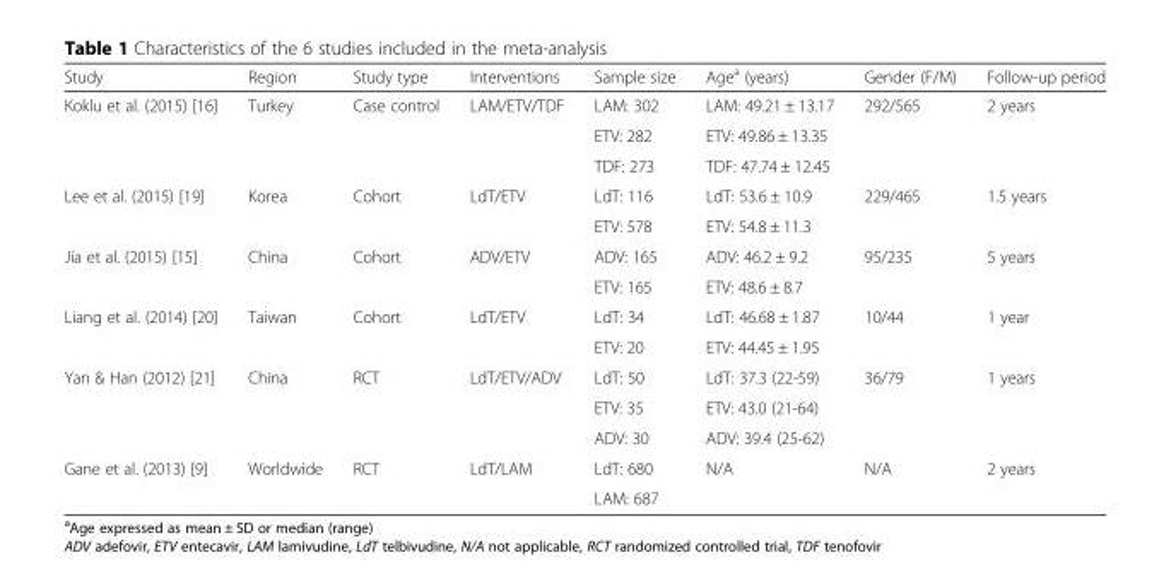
<table><thead><tr><td>Study</td><td>Region</td><td>Study type</td><td>Interventions</td><td>Sample size</td><td>Age<sup>a</sup> (years)</td><td>Gender (F/M)</td><td>Follow-up period</td></tr></thead><tbody><tr><td rowspan="3">Koklu et al. (2015) [16]</td><td rowspan="3">Turkey</td><td rowspan="3">Case control</td><td rowspan="3">LAM/ETV/TDF</td><td>LAM: 302</td><td>LAM: 49.21 ± 13.17</td><td rowspan="3">292/565</td><td rowspan="3">2 years</td></tr><tr><td>ETV: 282</td><td>ETV: 49.86 ± 13.35</td></tr><tr><td>TDF: 273</td><td>TDF: 47.74 ± 12.45</td></tr><tr><td rowspan="2">Lee et al. (2015) [19]</td><td rowspan="2">Korea</td><td rowspan="2">Cohort</td><td rowspan="2">LdT/ETV</td><td>LdT: 116</td><td>LdT: 53.6 ± 10.9</td><td rowspan="2">229/465</td><td rowspan="2">1.5 years</td></tr><tr><td>ETV: 578</td><td>ETV: 54.8 ± 11.3</td></tr><tr><td rowspan="2">Jia et al. (2015) [15]</td><td rowspan="2">China</td><td rowspan="2">Cohort</td><td rowspan="2">ADV/ETV</td><td>ADV: 165</td><td>ADV: 46.2 ± 9.2</td><td rowspan="2">95/235</td><td rowspan="2">5 years</td></tr><tr><td>ETV: 165</td><td>ETV: 48.6 ± 8.7</td></tr><tr><td rowspan="2">Liang et al. (2014) [20]</td><td rowspan="2">Taiwan</td><td rowspan="2">Cohort</td><td rowspan="2">LdT/ETV</td><td>LdT: 34</td><td>LdT: 46.68 ± 1.87</td><td rowspan="2">10/44</td><td rowspan="2">1 year</td></tr><tr><td>ETV: 20</td><td>ETV: 44.45 ± 1.95</td></tr><tr><td rowspan="3">Yan &amp; Han (2012) [21]</td><td rowspan="3">China</td><td rowspan="3">RCT</td><td rowspan="3">LdT/ETV/ADV</td><td>LdT: 50</td><td>LdT: 37.3 (22-59)</td><td rowspan="3">36/79</td><td rowspan="3">1 years</td></tr><tr><td>ETV: 35</td><td>ETV: 43.0 (21-64)</td></tr><tr><td>ADV: 30</td><td>ADV: 39.4 (25-62)</td></tr><tr><td rowspan="2">Gane et al. (2013) [9]</td><td rowspan="2">Worldwide</td><td rowspan="2">RCT</td><td rowspan="2">LdT/LAM</td><td>LdT: 680</td><td rowspan="2">N/A</td><td rowspan="2">N/A</td><td rowspan="2">2 years</td></tr><tr><td>LAM: 687</td></tr></tbody></table>